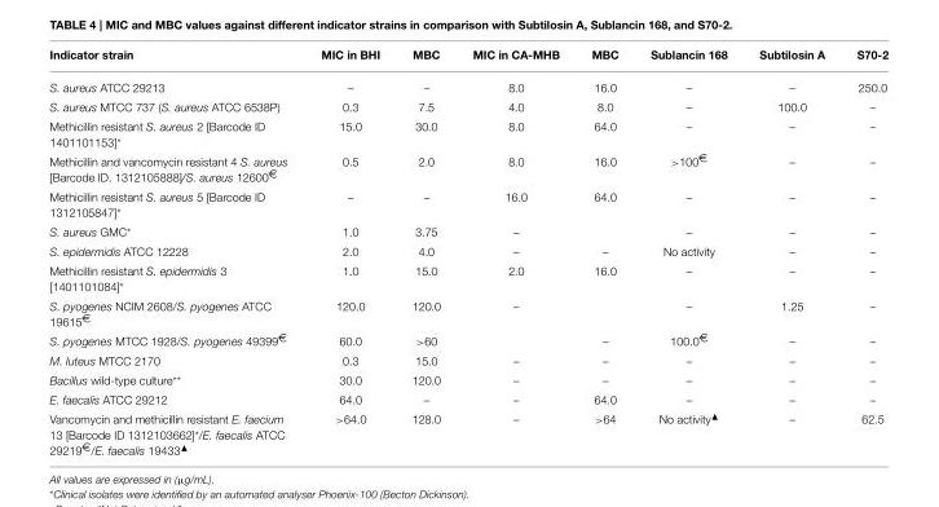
<table><thead><tr><td>Indicator strain</td><td>MIC in BHI</td><td>MBC</td><td>MIC in CA-MHB</td><td>MBC</td><td>Sublancin 168</td><td>Subtilosin A</td><td>S70-2</td></tr></thead><tbody><tr><td>S. aureus ATCC 29213</td><td>–</td><td>–</td><td>8.0</td><td>16.0</td><td>–</td><td>–</td><td>250.0</td></tr><tr><td>S. aureus MTCC 737 (S. aureus ATCC 6538P)</td><td>0.3</td><td>7.5</td><td>4.0</td><td>8.0</td><td>–</td><td>100.0</td><td>–</td></tr><tr><td>Methicillin resistant S. aureus 2 [Barcode ID 1401101153]*</td><td>15.0</td><td>30.0</td><td>8.0</td><td>64.0</td><td>–</td><td>–</td><td>–</td></tr><tr><td>Methicillin and vancomycin resistant 4 S. aureus [Barcode ID. 1312105888]/S. aureus 12600<sup>€</sup></td><td>0.5</td><td>2.0</td><td>8.0</td><td>16.0</td><td>&gt;100<sup>€</sup></td><td>–</td><td>–</td></tr><tr><td>Methicillin resistant S. aureus 5 [Barcode ID 1312105847]*</td><td>–</td><td>–</td><td>16.0</td><td>64.0</td><td>–</td><td>–</td><td>–</td></tr><tr><td>S. aureus GMC*</td><td>1.0</td><td>3.75</td><td>–</td><td></td><td>–</td><td>–</td><td>–</td></tr><tr><td>S. epidermidis ATCC 12228</td><td>2.0</td><td>4.0</td><td>–</td><td>–</td><td>No activity</td><td>–</td><td>–</td></tr><tr><td>Methicillin resistant S. epidermidis 3 [1401101084]*</td><td>1.0</td><td>15.0</td><td>2.0</td><td>16.0</td><td>–</td><td>–</td><td>–</td></tr><tr><td>S. pyogenes NCIM 2608/S. pyogenes ATCC 19615<sup>€</sup></td><td>120.0</td><td>120.0</td><td>–</td><td></td><td>–</td><td>1.25</td><td>–</td></tr><tr><td>S. pyogenes MTCC 1928/S. pyogenes 49399<sup>€</sup></td><td>60.0</td><td>&gt;60</td><td></td><td>–</td><td>100.0<sup>€</sup></td><td>–</td><td>–</td></tr><tr><td>M. luteus MTCC 2170</td><td>0.3</td><td>15.0</td><td>–</td><td>–</td><td>–</td><td>–</td><td>–</td></tr><tr><td>Bacillus wild-type culture**</td><td>30.0</td><td>120.0</td><td>–</td><td>–</td><td>–</td><td>–</td><td>–</td></tr><tr><td>E. faecalis ATCC 29212</td><td>64.0</td><td>–</td><td>–</td><td>64.0</td><td>–</td><td>–</td><td>–</td></tr><tr><td>Vancomycin and methicillin resistant E. faecium 13 [Barcode ID 1312103662]*/E. faecalis ATCC 29219e/E. faecalis 19433▲</td><td>&gt;64.0</td><td>128.0</td><td>–</td><td>&gt;64</td><td>No activity▲</td><td>–</td><td>62.5</td></tr></tbody></table>